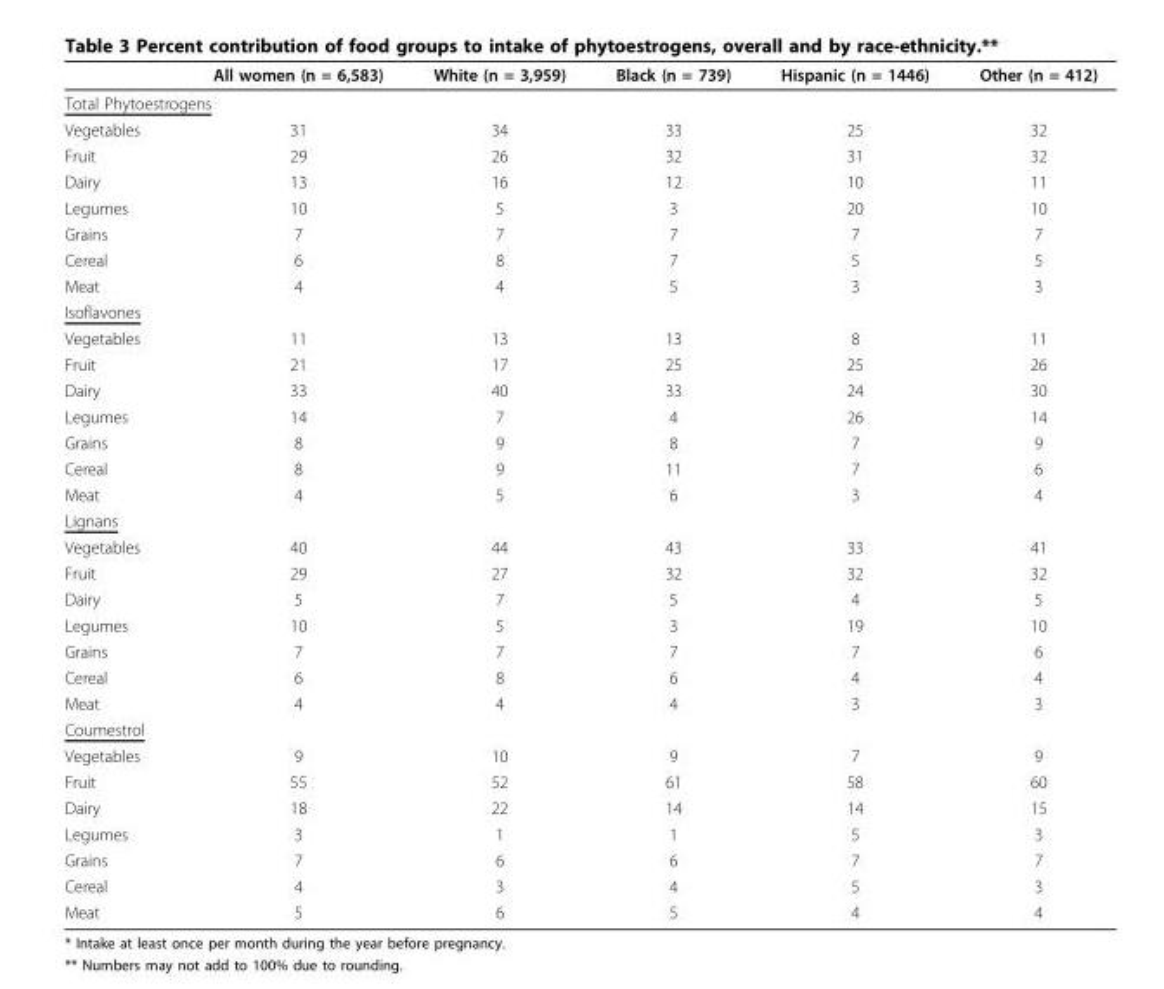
<table><thead><tr><td></td><td>All women (n = 6,583)</td><td>White (n = 3,959)</td><td>Black (n = 739)</td><td>Hispanic (n = 1446)</td><td>Other (n = 412)</td></tr></thead><tbody><tr><td colspan="6">Total Phytoestrogens</td></tr><tr><td>Vegetables</td><td>31</td><td>34</td><td>33</td><td>25</td><td>32</td></tr><tr><td>Fruit</td><td>29</td><td>26</td><td>32</td><td>31</td><td>32</td></tr><tr><td>Dairy</td><td>13</td><td>16</td><td>12</td><td>10</td><td>11</td></tr><tr><td>Legumes</td><td>10</td><td>5</td><td>3</td><td>20</td><td>10</td></tr><tr><td>Grains</td><td>7</td><td>7</td><td>7</td><td>7</td><td>7</td></tr><tr><td>Cereal</td><td>6</td><td>8</td><td>7</td><td>5</td><td>5</td></tr><tr><td>Meat</td><td>4</td><td>4</td><td>5</td><td>3</td><td>3</td></tr><tr><td colspan="6">Isoflavones</td></tr><tr><td>Vegetables</td><td>11</td><td>13</td><td>13</td><td>8</td><td>11</td></tr><tr><td>Fruit</td><td>21</td><td>17</td><td>25</td><td>25</td><td>26</td></tr><tr><td>Dairy</td><td>33</td><td>40</td><td>33</td><td>24</td><td>30</td></tr><tr><td>Legumes</td><td>14</td><td>7</td><td>4</td><td>26</td><td>14</td></tr><tr><td>Grains</td><td>8</td><td>9</td><td>8</td><td>7</td><td>9</td></tr><tr><td>Cereal</td><td>8</td><td>9</td><td>11</td><td>7</td><td>6</td></tr><tr><td>Meat</td><td>4</td><td>5</td><td>6</td><td>3</td><td>4</td></tr><tr><td colspan="6">Lignans</td></tr><tr><td>Vegetables</td><td>40</td><td>44</td><td>43</td><td>33</td><td>41</td></tr><tr><td>Fruit</td><td>29</td><td>27</td><td>32</td><td>32</td><td>32</td></tr><tr><td>Dairy</td><td>5</td><td>7</td><td>5</td><td>4</td><td>5</td></tr><tr><td>Legumes</td><td>10</td><td>5</td><td>3</td><td>19</td><td>10</td></tr><tr><td>Grains</td><td>7</td><td>7</td><td>7</td><td>7</td><td>6</td></tr><tr><td>Cereal</td><td>6</td><td>8</td><td>6</td><td>4</td><td>4</td></tr><tr><td>Meat</td><td>4</td><td>4</td><td>4</td><td>3</td><td>3</td></tr><tr><td colspan="6">Coumestrol</td></tr><tr><td>Vegetables</td><td>9</td><td>10</td><td>9</td><td>7</td><td>9</td></tr><tr><td>Fruit</td><td>55</td><td>52</td><td>61</td><td>58</td><td>60</td></tr><tr><td>Dairy</td><td>18</td><td>22</td><td>14</td><td>14</td><td>15</td></tr><tr><td>Legumes</td><td>3</td><td>1</td><td>1</td><td>5</td><td>3</td></tr><tr><td>Grains</td><td>7</td><td>6</td><td>6</td><td>7</td><td>7</td></tr><tr><td>Cereal</td><td>4</td><td>3</td><td>4</td><td>5</td><td>3</td></tr><tr><td>Meat</td><td>5</td><td>6</td><td>5</td><td>4</td><td>4</td></tr></tbody></table>